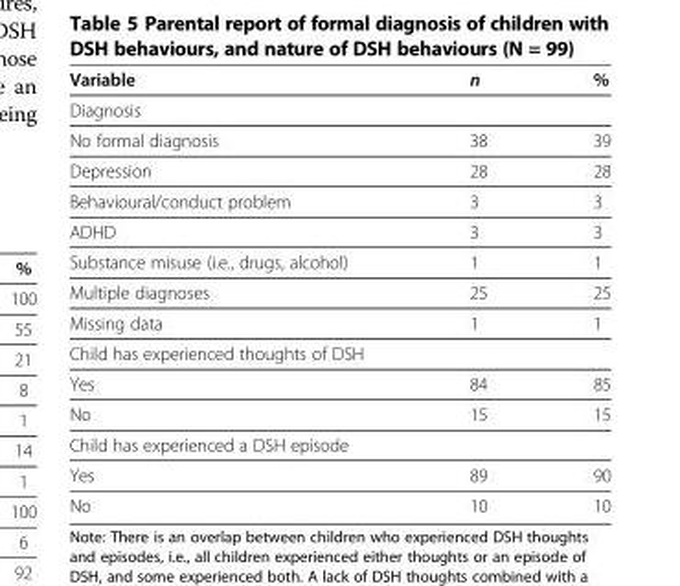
<table><thead><tr><td>Variable</td><td>n</td><td>%</td></tr></thead><tbody><tr><td colspan="3">Diagnosis</td></tr><tr><td>No formal diagnosis</td><td>38</td><td>39</td></tr><tr><td>Depression</td><td>28</td><td>28</td></tr><tr><td>Behavioural/conduct problem</td><td>3</td><td>3</td></tr><tr><td>ADHD</td><td>3</td><td>3</td></tr><tr><td>Substance misuse (i.e., drugs, alcohol)</td><td>1</td><td>1</td></tr><tr><td>Multiple diagnoses</td><td>25</td><td>25</td></tr><tr><td>Missing data</td><td>1</td><td>1</td></tr><tr><td colspan="3">Child has experienced thoughts of DSH</td></tr><tr><td>Yes</td><td>84</td><td>85</td></tr><tr><td>No</td><td>15</td><td>15</td></tr><tr><td colspan="3">Child has experienced a DSH episode</td></tr><tr><td>Yes</td><td>89</td><td>90</td></tr><tr><td>No</td><td>10</td><td>10</td></tr></tbody></table>